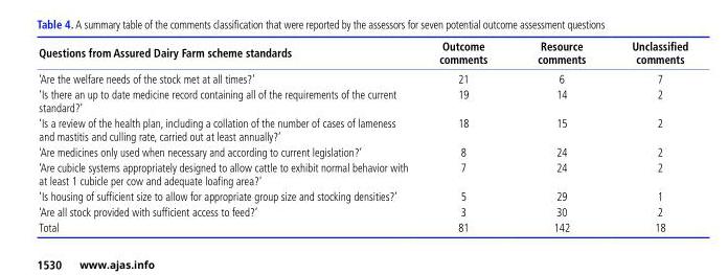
<table><thead><tr><td>Questions from Assured Dairy Farm scheme standards</td><td>Outcome comments</td><td>Resource comments</td><td>Unclassified comments</td></tr></thead><tbody><tr><td>‘Are the welfare needs of the stock met at all times?’</td><td>21</td><td>6</td><td>7</td></tr><tr><td>‘Is there an up to date medicine record containing all of the requirements of the current standard?’</td><td>19</td><td>14</td><td>2</td></tr><tr><td>‘Is a review of the health plan, including a collation of the number of cases of lameness and mastitis and culling rate, carried out at least annually?’</td><td>18</td><td>15</td><td>2</td></tr><tr><td>‘Are medicines only used when necessary and according to current legislation?’</td><td>8</td><td>24</td><td>2</td></tr><tr><td>‘Are cubicle systems appropriately designed to allow cattle to exhibit normal behavior with at least 1 cubicle per cow and adequate loafing area?’</td><td>7</td><td>24</td><td>2</td></tr><tr><td>‘Is housing of sufficient size to allow for appropriate group size and stocking densities?’</td><td>5</td><td>29</td><td>1</td></tr><tr><td>‘Are all stock provided with sufficient access to feed?’</td><td>3</td><td>30</td><td>2</td></tr><tr><td>Total</td><td>81</td><td>142</td><td>18</td></tr></tbody></table>